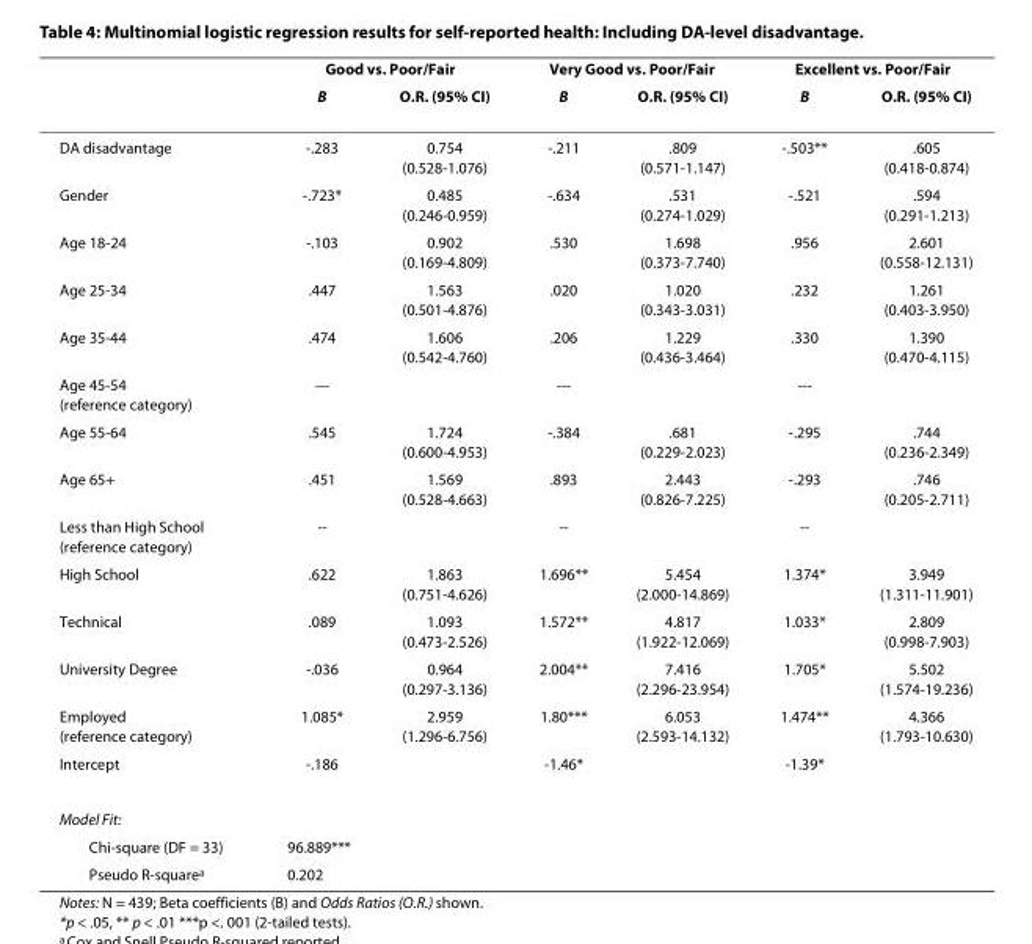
<table><thead><tr><td rowspan="2"></td><td colspan="2">Good vs. Poor/Fair</td><td colspan="2">Very Good vs. Poor/Fair</td><td colspan="2">Excellent vs. Poor/Fair</td></tr><tr><td>B</td><td>O.R. (95% CI)</td><td>B</td><td>O.R. (95% CI)</td><td>B</td><td>O.R. (95% CI)</td></tr></thead><tbody><tr><td>DA disadvantage</td><td>-.283</td><td>0.754 (0.528-1.076)</td><td>-.211</td><td>.809 (0.571-1.147)</td><td>-.503**</td><td>.605 (0.418-0.874)</td></tr><tr><td>Gender</td><td>-.723*</td><td>0.485 (0.246-0.959)</td><td>-.634</td><td>.531 (0.274-1.029)</td><td>-.521</td><td>.594 (0.291-1.213)</td></tr><tr><td>Age 18-24</td><td>-.103</td><td>0.902 (0.169-4.809)</td><td>.530</td><td>1.698 (0.373-7.740)</td><td>.956</td><td>2.601 (0.558-12.131)</td></tr><tr><td>Age 25-34</td><td>.447</td><td>1.563 (0.501-4.876)</td><td>.020</td><td>1.020 (0.343-3.031)</td><td>.232</td><td>1.261 (0.403-3.950)</td></tr><tr><td>Age 35-44</td><td>.474</td><td>1.606 (0.542-4.760)</td><td>.206</td><td>1.229 (0.436-3.464)</td><td>.330</td><td>1.390 (0.470-4.115)</td></tr><tr><td>Age 45-54 (reference category)</td><td>---</td><td></td><td>---</td><td></td><td>---</td><td></td></tr><tr><td>Age 55-64</td><td>.545</td><td>1.724 (0.600-4.953)</td><td>-.384</td><td>.681 (0.229-2.023)</td><td>-.295</td><td>.744 (0.236-2.349)</td></tr><tr><td>Age 65+</td><td>.451</td><td>1.569 (0.528-4.663)</td><td>.893</td><td>2.443 (0.826-7.225)</td><td>-.293</td><td>.746 (0.205-2.711)</td></tr><tr><td>Less than High School (reference category)</td><td>--</td><td></td><td>--</td><td></td><td>--</td><td></td></tr><tr><td>High School</td><td>.622</td><td>1.863 (0.751-4.626)</td><td>1.696**</td><td>5.454 (2.000-14.869)</td><td>1.374*</td><td>3.949 (1.311-11.901)</td></tr><tr><td>Technical</td><td>.089</td><td>1.093 (0.473-2.526)</td><td>1.572**</td><td>4.817 (1.922-12.069)</td><td>1.033*</td><td>2.809 (0.998-7.903)</td></tr><tr><td>University Degree</td><td>-.036</td><td>0.964 (0.297-3.136)</td><td>2.004**</td><td>7.416 (2.296-23.954)</td><td>1.705*</td><td>5.502 (1.574-19.236)</td></tr><tr><td>Employed (reference category)</td><td>1.085*</td><td>2.959 (1.296-6.756)</td><td>1.80***</td><td>6.053 (2.593-14.132)</td><td>1.474**</td><td>4.366 (1.793-10.630)</td></tr><tr><td>Intercept</td><td>-.186</td><td></td><td>-1.46*</td><td></td><td>-1.39*</td><td></td></tr><tr><td colspan="7">Model Fit:</td></tr><tr><td>Chi-square (DF = 33)</td><td>96.889***</td><td></td><td></td><td></td><td></td><td></td></tr><tr><td>Pseudo R-square<sup>a</sup></td><td>0.202</td><td></td><td></td><td></td><td></td><td></td></tr></tbody></table>